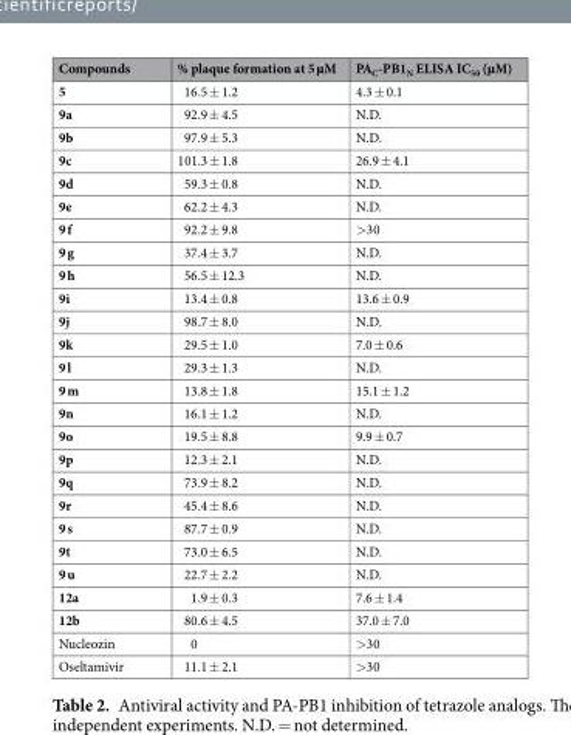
<table><thead><tr><td>Compounds</td><td>% plaque formation at 5 µM</td><td>PA<sub>C</sub>-PB1<sub>N</sub> ELISA IC<sub>50</sub> (µM)</td></tr></thead><tbody><tr><td>5</td><td>16.5 ± 1.2</td><td>4.3 ± 0.1</td></tr><tr><td>9a</td><td>92.9 ± 4.5</td><td>N.D.</td></tr><tr><td>9b</td><td>97.9 ± 5.3</td><td>N.D.</td></tr><tr><td>9c</td><td>101.3 ± 1.8</td><td>26.9 ± 4.1</td></tr><tr><td>9d</td><td>59.3 ± 0.8</td><td>N.D.</td></tr><tr><td>9e</td><td>62.2 ± 4.3</td><td>N.D.</td></tr><tr><td>9 f</td><td>92.2 ± 9.8</td><td>&gt;30</td></tr><tr><td>9 g</td><td>37.4 ± 3.7</td><td>N.D.</td></tr><tr><td>9 h</td><td>56.5 ± 12.3</td><td>N.D.</td></tr><tr><td>9i</td><td>13.4 ± 0.8</td><td>13.6 ± 0.9</td></tr><tr><td>9j</td><td>98.7 ± 8.0</td><td>N.D.</td></tr><tr><td>9k</td><td>29.5 ± 1.0</td><td>7.0 ± 0.6</td></tr><tr><td>9 l</td><td>29.3 ± 1.3</td><td>N.D.</td></tr><tr><td>9 m</td><td>13.8 ± 1.8</td><td>15.1 ± 1.2</td></tr><tr><td>9n</td><td>16.1 ± 1.2</td><td>N.D.</td></tr><tr><td>9o</td><td>19.5 ± 8.8</td><td>9.9 ± 0.7</td></tr><tr><td>9p</td><td>12.3 ± 2.1</td><td>N.D.</td></tr><tr><td>9q</td><td>73.9 ± 8.2</td><td>N.D.</td></tr><tr><td>9r</td><td>45.4 ± 8.6</td><td>N.D.</td></tr><tr><td>9 s</td><td>87.7 ± 0.9</td><td>N.D.</td></tr><tr><td>9t</td><td>73.0 ± 6.5</td><td>N.D.</td></tr><tr><td>9 u</td><td>22.7 ± 2.2</td><td>N.D.</td></tr><tr><td>12a</td><td>1.9 ± 0.3</td><td>7.6 ± 1.4</td></tr><tr><td>12b</td><td>80.6 ± 4.5</td><td>37.0 ± 7.0</td></tr><tr><td>Nucleozin</td><td>0</td><td>&gt;30</td></tr><tr><td>Oseltamivir</td><td>11.1 ± 2.1</td><td>&gt;30</td></tr></tbody></table>